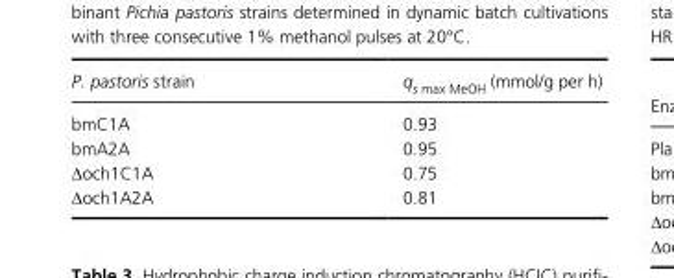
<table><thead><tr><td>P. pastoris strain</td><td>q<sub>s max MeOH</sub> (mmol/g per h)</td></tr></thead><tbody><tr><td>bmC1A</td><td>0.93</td></tr><tr><td>bmA2A</td><td>0.95</td></tr><tr><td>Δoch1C1A</td><td>0.75</td></tr><tr><td>Δoch1A2A</td><td>0.81</td></tr></tbody></table>